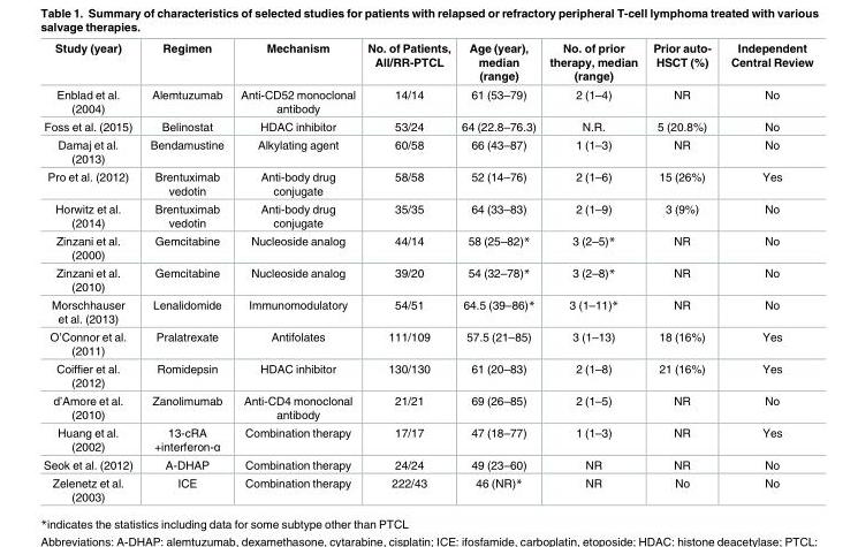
<table><thead><tr><td>Study (year)</td><td>Regimen</td><td>Mechanism</td><td>No. of Patients, All/RR-PTCL</td><td>Age (year), median (range)</td><td>No. of prior therapy, median (range)</td><td>Prior auto- HSCT (%)</td><td>Independent Central Review</td></tr></thead><tbody><tr><td>Enblad et al. (2004)</td><td>Alemtuzumab</td><td>Anti-CD52 monoclonal antibody</td><td>14/14</td><td>61 (53–79)</td><td>2 (1–4)</td><td>NR</td><td>No</td></tr><tr><td>Foss et al. (2015)</td><td>Belinostat</td><td>HDAC inhibitor</td><td>53/24</td><td>64 (22.8–76.3)</td><td>N.R.</td><td>5 (20.8%)</td><td>No</td></tr><tr><td>Damaj et al. (2013)</td><td>Bendamustine</td><td>Alkylating agent</td><td>60/58</td><td>66 (43–87)</td><td>1 (1–3)</td><td>NR</td><td>No</td></tr><tr><td>Pro et al. (2012)</td><td>Brentuximab vedotin</td><td>Anti-body drug conjugate</td><td>58/58</td><td>52 (14–76)</td><td>2 (1–6)</td><td>15 (26%)</td><td>Yes</td></tr><tr><td>Horwitz et al. (2014)</td><td>Brentuximab vedotin</td><td>Anti-body drug conjugate</td><td>35/35</td><td>64 (33–83)</td><td>2 (1–9)</td><td>3 (9%)</td><td>No</td></tr><tr><td>Zinzani et al. (2000)</td><td>Gemcitabine</td><td>Nucleoside analog</td><td>44/14</td><td>58 (25–82)*</td><td>3 (2–5)*</td><td>NR</td><td>No</td></tr><tr><td>Zinzani et al. (2010)</td><td>Gemcitabine</td><td>Nucleoside analog</td><td>39/20</td><td>54 (32–78)*</td><td>3 (2–8)*</td><td>NR</td><td>No</td></tr><tr><td>Morschhauser et al. (2013)</td><td>Lenalidomide</td><td>Immunomodulatory</td><td>54/51</td><td>64.5 (39–86)*</td><td>3 (1–11)*</td><td>NR</td><td>No</td></tr><tr><td>O’Connor et al. (2011)</td><td>Pralatrexate</td><td>Antifolates</td><td>111/109</td><td>57.5 (21–85)</td><td>3 (1–13)</td><td>18 (16%)</td><td>Yes</td></tr><tr><td>Coiffier et al. (2012)</td><td>Romidepsin</td><td>HDAC inhibitor</td><td>130/130</td><td>61 (20–83)</td><td>2 (1–8)</td><td>21 (16%)</td><td>Yes</td></tr><tr><td>d’Amore et al. (2010)</td><td>Zanolimumab</td><td>Anti-CD4 monoclonal antibody</td><td>21/21</td><td>69 (26–85)</td><td>2 (1–5)</td><td>NR</td><td>No</td></tr><tr><td>Huang et al. (2002)</td><td>13-cRA +interferon-α</td><td>Combination therapy</td><td>17/17</td><td>47 (18–77)</td><td>1 (1–3)</td><td>NR</td><td>Yes</td></tr><tr><td>Seok et al. (2012)</td><td>A-DHAP</td><td>Combination therapy</td><td>24/24</td><td>49 (23–60)</td><td>NR</td><td>NR</td><td>No</td></tr><tr><td>Zelenetz et al. (2003)</td><td>ICE</td><td>Combination therapy</td><td>222/43</td><td>46 (NR)*</td><td>NR</td><td>No</td><td>No</td></tr></tbody></table>